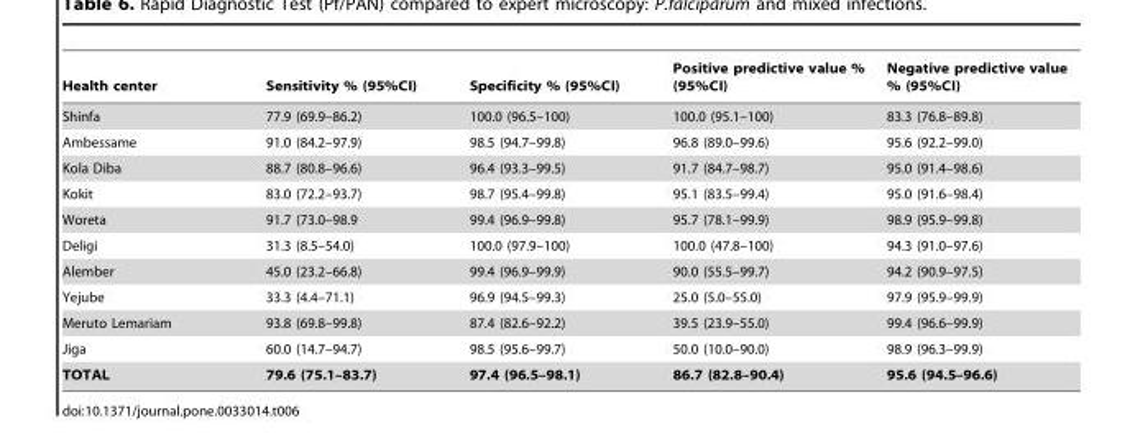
<table><thead><tr><td>Health center</td><td>Sensitivity % (95%CI)</td><td>Specificity % (95%CI)</td><td>Positive predictive value % (95%CI)</td><td>Negative predictive value % (95%CI)</td></tr></thead><tbody><tr><td>Shinfa</td><td>77.9 (69.9–86.2)</td><td>100.0 (96.5–100)</td><td>100.0 (95.1–100)</td><td>83.3 (76.8–89.8)</td></tr><tr><td>Ambessame</td><td>91.0 (84.2–97.9)</td><td>98.5 (94.7–99.8)</td><td>96.8 (89.0–99.6)</td><td>95.6 (92.2–99.0)</td></tr><tr><td>Kola Diba</td><td>88.7 (80.8–96.6)</td><td>96.4 (93.3–99.5)</td><td>91.7 (84.7–98.7)</td><td>95.0 (91.4–98.6)</td></tr><tr><td>Kokit</td><td>83.0 (72.2–93.7)</td><td>98.7 (95.4–99.8)</td><td>95.1 (83.5–99.4)</td><td>95.0 (91.6–98.4)</td></tr><tr><td>Woreta</td><td>91.7 (73.0–98.9</td><td>99.4 (96.9–99.8)</td><td>95.7 (78.1–99.9)</td><td>98.9 (95.9–99.8)</td></tr><tr><td>Deligi</td><td>31.3 (8.5–54.0)</td><td>100.0 (97.9–100)</td><td>100.0 (47.8–100)</td><td>94.3 (91.0–97.6)</td></tr><tr><td>Alember</td><td>45.0 (23.2–66.8)</td><td>99.4 (96.9–99.9)</td><td>90.0 (55.5–99.7)</td><td>94.2 (90.9–97.5)</td></tr><tr><td>Yejube</td><td>33.3 (4.4–71.1)</td><td>96.9 (94.5–99.3)</td><td>25.0 (5.0–55.0)</td><td>97.9 (95.9–99.9)</td></tr><tr><td>Meruto Lemariam</td><td>93.8 (69.8–99.8)</td><td>87.4 (82.6–92.2)</td><td>39.5 (23.9–55.0)</td><td>99.4 (96.6–99.9)</td></tr><tr><td>Jiga</td><td>60.0 (14.7–94.7)</td><td>98.5 (95.6–99.7)</td><td>50.0 (10.0–90.0)</td><td>98.9 (96.3–99.9)</td></tr><tr><td>TOTAL</td><td>79.6 (75.1–83.7)</td><td>97.4 (96.5–98.1)</td><td>86.7 (82.8–90.4)</td><td>95.6 (94.5–96.6)</td></tr></tbody></table>